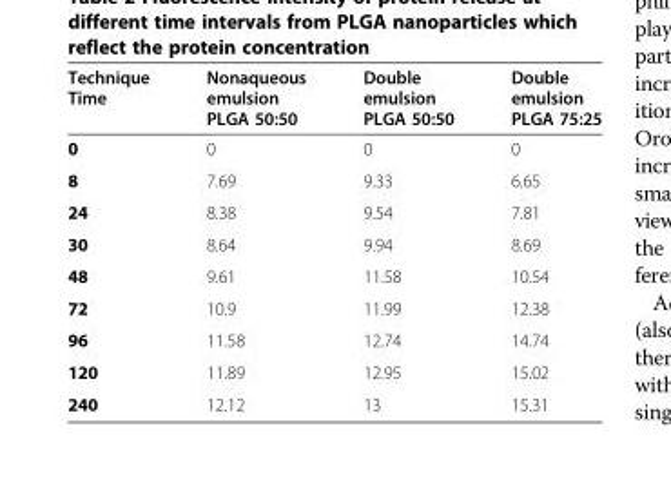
<table><thead><tr><td>Technique Time</td><td>Nonaqueous emulsion PLGA 50:50</td><td>Double emulsion PLGA 50:50</td><td>Double emulsion PLGA 75:25</td></tr></thead><tbody><tr><td>0</td><td>0</td><td>0</td><td>0</td></tr><tr><td>8</td><td>7.69</td><td>9.33</td><td>6.65</td></tr><tr><td>24</td><td>8.38</td><td>9.54</td><td>7.81</td></tr><tr><td>30</td><td>8.64</td><td>9.94</td><td>8.69</td></tr><tr><td>48</td><td>9.61</td><td>11.58</td><td>10.54</td></tr><tr><td>72</td><td>10.9</td><td>11.99</td><td>12.38</td></tr><tr><td>96</td><td>11.58</td><td>12.74</td><td>14.74</td></tr><tr><td>120</td><td>11.89</td><td>12.95</td><td>15.02</td></tr><tr><td>240</td><td>12.12</td><td>13</td><td>15.31</td></tr></tbody></table>